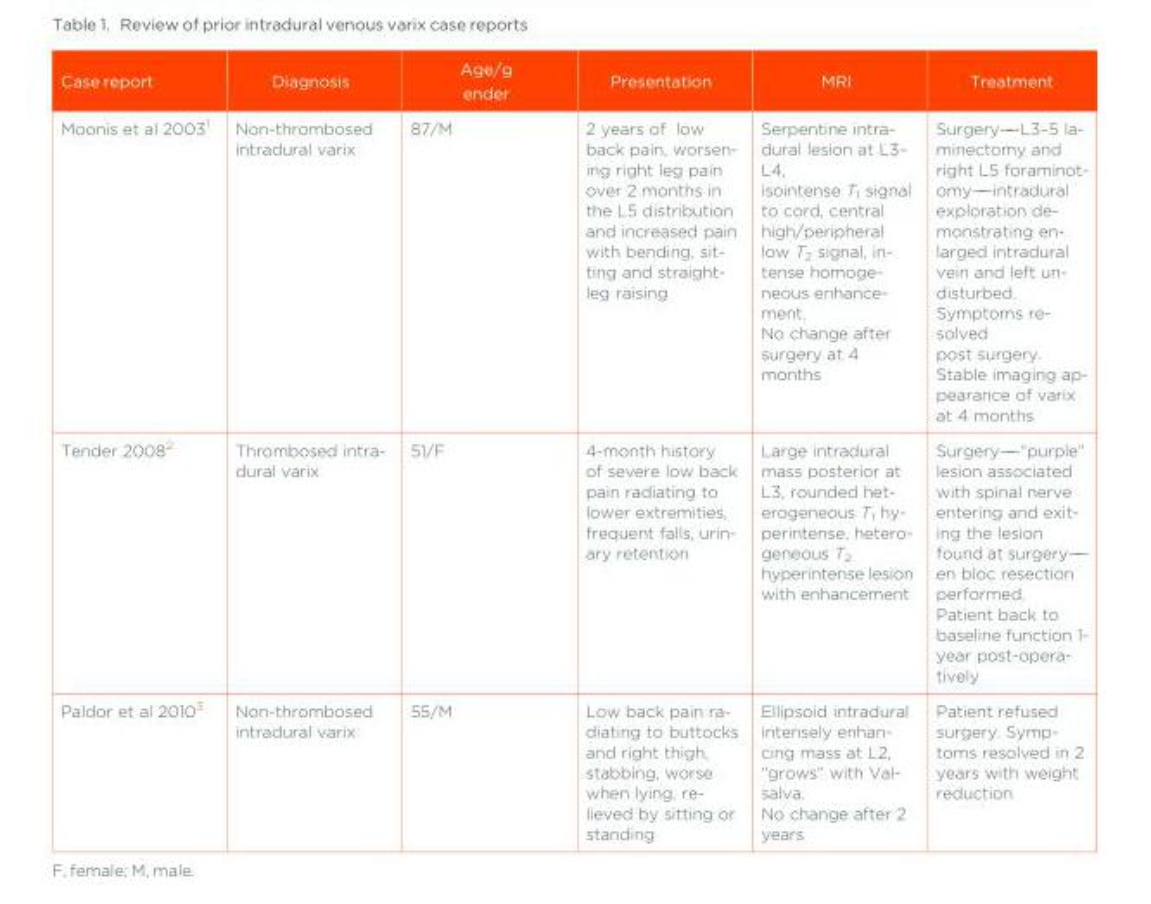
<table><thead><tr><td>Case report</td><td>Diagnosis</td><td>Age/g ender</td><td>Presentation</td><td>MRI</td><td>Treatment</td></tr></thead><tbody><tr><td>Moonis et al 2003<sup>1</sup></td><td>Non-thrombosed intradural varix</td><td>87/M</td><td>2 years of low back pain, worsen- ing right leg pain over 2 months in the L5 distribution and increased pain with bending, sit- ting and straight- leg raising</td><td>Serpentine intra- dural lesion at L3– L4, isointense T1 signal to cord, central high/peripheral low T2 signal, in- tense homoge- neous enhance- ment. No change after surgery at 4 months</td><td>Surgery——L3–5 la- minectomy and right L5 foraminot- omy——intradural exploration de- monstrating en- larged intradural vein and left un- disturbed. Symptoms re- solved post surgery. Stable imaging ap- pearance of varix at 4 months</td></tr><tr><td>Tender 2008<sup>2</sup></td><td>Thrombosed intra- dural varix</td><td>51/F</td><td>4-month history of severe low back pain radiating to lower extremities, frequent falls, urin- ary retention</td><td>Large intradural mass posterior at L3, rounded het- erogeneous T1 hy- perintense, hetero- geneous T2 hyperintense lesion with enhancement</td><td>Surgery——“purple” lesion associated with spinal nerve entering and exit- ing the lesion found at surgery—— en bloc resection performed. Patient back to baseline function 1- year post-opera- tively</td></tr><tr><td>Paldor et al 2010<sup>3</sup></td><td>Non-thrombosed intradural varix</td><td>55/M</td><td>Low back pain ra- diating to buttocks and right thigh, stabbing, worse when lying, re- lieved by sitting or standing</td><td>Ellipsoid intradural intensely enhan- cing mass at L2, “grows” with Val- salva. No change after 2 years</td><td>Patient refused surgery. Symp- toms resolved in 2 years with weight reduction</td></tr></tbody></table>